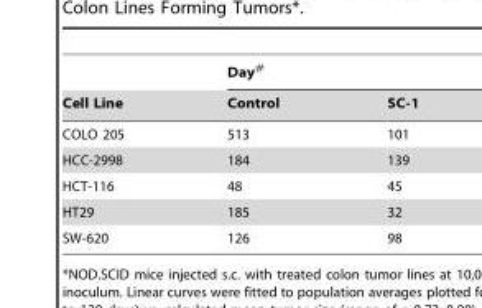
<table><thead><tr><td rowspan="2">Cell Line</td><td colspan="2">Day#</td></tr><tr><td>Control</td><td>SC-1</td></tr></thead><tbody><tr><td>COLO 205</td><td>513</td><td>101</td></tr><tr><td>HCC-2998</td><td>184</td><td>139</td></tr><tr><td>HCT-116</td><td>48</td><td>45</td></tr><tr><td>HT29</td><td>185</td><td>32</td></tr><tr><td>SW-620</td><td>126</td><td>98</td></tr></tbody></table>